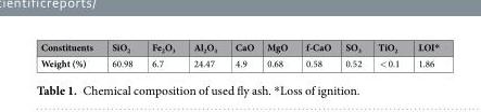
<table><thead><tr><td>Constituents</td><td>SiO<sub>2</sub></td><td>Fe<sub>2</sub>O<sub>3</sub></td><td>Al<sub>2</sub>O<sub>3</sub></td><td>CaO</td><td>MgO</td><td>f-CaO</td><td>SO<sub>3</sub></td><td>TiO<sub>2</sub></td><td>LOI*</td></tr></thead><tbody><tr><td>Weight (%)</td><td>60.98</td><td>6.7</td><td>24.47</td><td>4.9</td><td>0.68</td><td>0.58</td><td>0.52</td><td>&lt; 0.1</td><td>1.86</td></tr></tbody></table>